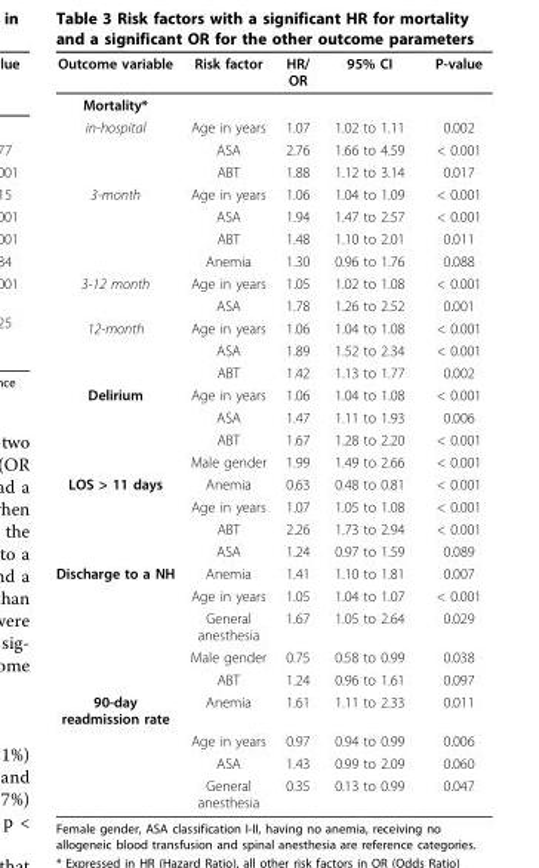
<table><thead><tr><td>Outcome variable</td><td>Risk factor</td><td>HR/ OR</td><td>95% CI</td><td>P-value</td></tr></thead><tbody><tr><td colspan="5">Mortality*</td></tr><tr><td rowspan="3">in-hospital</td><td>Age in years</td><td>1.07</td><td>1.02 to 1.11</td><td>0.002</td></tr><tr><td>ASA</td><td>2.76</td><td>1.66 to 4.59</td><td>&lt; 0.001</td></tr><tr><td>ABT</td><td>1.88</td><td>1.12 to 3.14</td><td>0.017</td></tr><tr><td rowspan="4">3-month</td><td>Age in years</td><td>1.06</td><td>1.04 to 1.09</td><td>&lt; 0.001</td></tr><tr><td>ASA</td><td>1.94</td><td>1.47 to 2.57</td><td>&lt; 0.001</td></tr><tr><td>ABT</td><td>1.48</td><td>1.10 to 2.01</td><td>0.011</td></tr><tr><td>Anemia</td><td>1.30</td><td>0.96 to 1.76</td><td>0.088</td></tr><tr><td rowspan="2">3-12 month</td><td>Age in years</td><td>1.05</td><td>1.02 to 1.08</td><td>&lt; 0.001</td></tr><tr><td>ASA</td><td>1.78</td><td>1.26 to 2.52</td><td>0.001</td></tr><tr><td rowspan="3">12-month</td><td>Age in years</td><td>1.06</td><td>1.04 to 1.08</td><td>&lt; 0.001</td></tr><tr><td>ASA</td><td>1.89</td><td>1.52 to 2.34</td><td>&lt; 0.001</td></tr><tr><td>ABT</td><td>1.42</td><td>1.13 to 1.77</td><td>0.002</td></tr><tr><td rowspan="4">Delirium</td><td>Age in years</td><td>1.06</td><td>1.04 to 1.08</td><td>&lt; 0.001</td></tr><tr><td>ASA</td><td>1.47</td><td>1.11 to 1.93</td><td>0.006</td></tr><tr><td>ABT</td><td>1.67</td><td>1.28 to 2.20</td><td>&lt; 0.001</td></tr><tr><td>Male gender</td><td>1.99</td><td>1.49 to 2.66</td><td>&lt; 0.001</td></tr><tr><td rowspan="4">LOS &gt; 11 days</td><td>Anemia</td><td>0.63</td><td>0.48 to 0.81</td><td>&lt; 0.001</td></tr><tr><td>Age in years</td><td>1.07</td><td>1.05 to 1.08</td><td>&lt; 0.001</td></tr><tr><td>ABT</td><td>2.26</td><td>1.73 to 2.94</td><td>&lt; 0.001</td></tr><tr><td>ASA</td><td>1.24</td><td>0.97 to 1.59</td><td>0.089</td></tr><tr><td rowspan="5">Discharge to a NH</td><td>Anemia</td><td>1.41</td><td>1.10 to 1.81</td><td>0.007</td></tr><tr><td>Age in years</td><td>1.05</td><td>1.04 to 1.07</td><td>&lt; 0.001</td></tr><tr><td>General anesthesia</td><td>1.67</td><td>1.05 to 2.64</td><td>0.029</td></tr><tr><td>Male gender</td><td>0.75</td><td>0.58 to 0.99</td><td>0.038</td></tr><tr><td>ABT</td><td>1.24</td><td>0.96 to 1.61</td><td>0.097</td></tr><tr><td rowspan="4">90-day readmission rate</td><td>Anemia</td><td>1.61</td><td>1.11 to 2.33</td><td>0.011</td></tr><tr><td>Age in years</td><td>0.97</td><td>0.94 to 0.99</td><td>0.006</td></tr><tr><td>ASA</td><td>1.43</td><td>0.99 to 2.09</td><td>0.060</td></tr><tr><td>General anesthesia</td><td>0.35</td><td>0.13 to 0.99</td><td>0.047</td></tr></tbody></table>